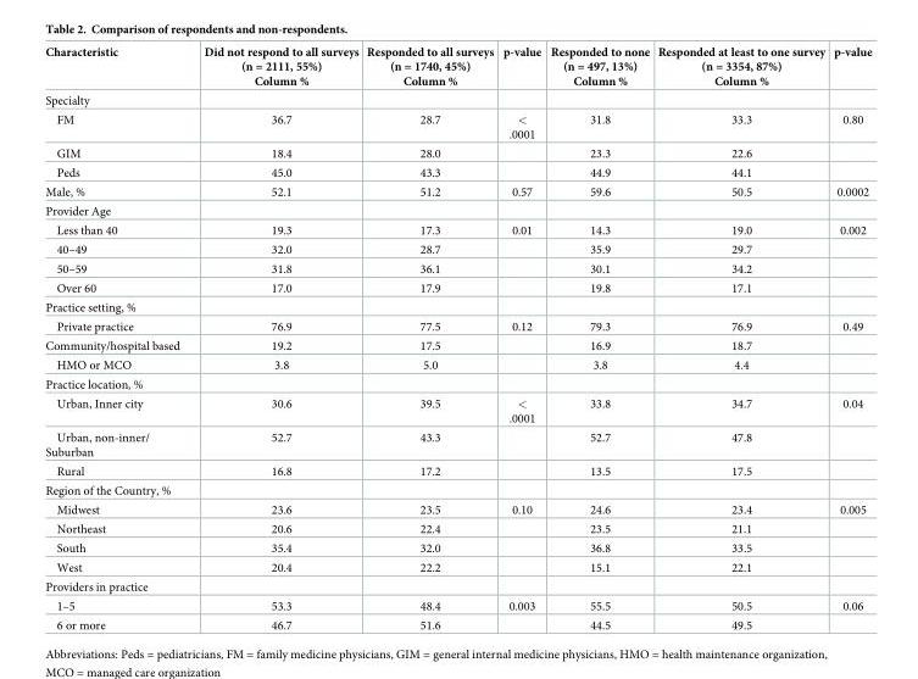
<table><thead><tr><td>Characteristic</td><td>Did not respond to all surveys (n = 2111, 55%) Column %</td><td>Responded to all surveys (n = 1740, 45%) Column %</td><td>p-value</td><td>Responded to none (n = 497, 13%) Column %</td><td>Responded at least to one survey (n = 3354, 87%) Column %</td><td>p-value</td></tr></thead><tbody><tr><td colspan="7">Specialty</td></tr><tr><td>FM</td><td>36.7</td><td>28.7</td><td>&lt; .0001</td><td>31.8</td><td>33.3</td><td>0.80</td></tr><tr><td>GIM</td><td>18.4</td><td>28.0</td><td></td><td>23.3</td><td>22.6</td><td></td></tr><tr><td>Peds</td><td>45.0</td><td>43.3</td><td></td><td>44.9</td><td>44.1</td><td></td></tr><tr><td>Male, %</td><td>52.1</td><td>51.2</td><td>0.57</td><td>59.6</td><td>50.5</td><td>0.0002</td></tr><tr><td colspan="7">Provider Age</td></tr><tr><td>Less than 40</td><td>19.3</td><td>17.3</td><td>0.01</td><td>14.3</td><td>19.0</td><td>0.002</td></tr><tr><td>40–49</td><td>32.0</td><td>28.7</td><td></td><td>35.9</td><td>29.7</td><td></td></tr><tr><td>50–59</td><td>31.8</td><td>36.1</td><td></td><td>30.1</td><td>34.2</td><td></td></tr><tr><td>Over 60</td><td>17.0</td><td>17.9</td><td></td><td>19.8</td><td>17.1</td><td></td></tr><tr><td colspan="7">Practice setting, %</td></tr><tr><td>Private practice</td><td>76.9</td><td>77.5</td><td>0.12</td><td>79.3</td><td>76.9</td><td>0.49</td></tr><tr><td>Community/hospital based</td><td>19.2</td><td>17.5</td><td></td><td>16.9</td><td>18.7</td><td></td></tr><tr><td>HMO or MCO</td><td>3.8</td><td>5.0</td><td></td><td>3.8</td><td>4.4</td><td></td></tr><tr><td colspan="7">Practice location, %</td></tr><tr><td>Urban, Inner city</td><td>30.6</td><td>39.5</td><td>&lt; .0001</td><td>33.8</td><td>34.7</td><td>0.04</td></tr><tr><td>Urban, non-inner/ Suburban</td><td>52.7</td><td>43.3</td><td></td><td>52.7</td><td>47.8</td><td></td></tr><tr><td>Rural</td><td>16.8</td><td>17.2</td><td></td><td>13.5</td><td>17.5</td><td></td></tr><tr><td colspan="7">Region of the Country, %</td></tr><tr><td>Midwest</td><td>23.6</td><td>23.5</td><td>0.10</td><td>24.6</td><td>23.4</td><td>0.005</td></tr><tr><td>Northeast</td><td>20.6</td><td>22.4</td><td></td><td>23.5</td><td>21.1</td><td></td></tr><tr><td>South</td><td>35.4</td><td>32.0</td><td></td><td>36.8</td><td>33.5</td><td></td></tr><tr><td>West</td><td>20.4</td><td>22.2</td><td></td><td>15.1</td><td>22.1</td><td></td></tr><tr><td colspan="7">Providers in practice</td></tr><tr><td>1–5</td><td>53.3</td><td>48.4</td><td>0.003</td><td>55.5</td><td>50.5</td><td>0.06</td></tr><tr><td>6 or more</td><td>46.7</td><td>51.6</td><td></td><td>44.5</td><td>49.5</td><td></td></tr></tbody></table>